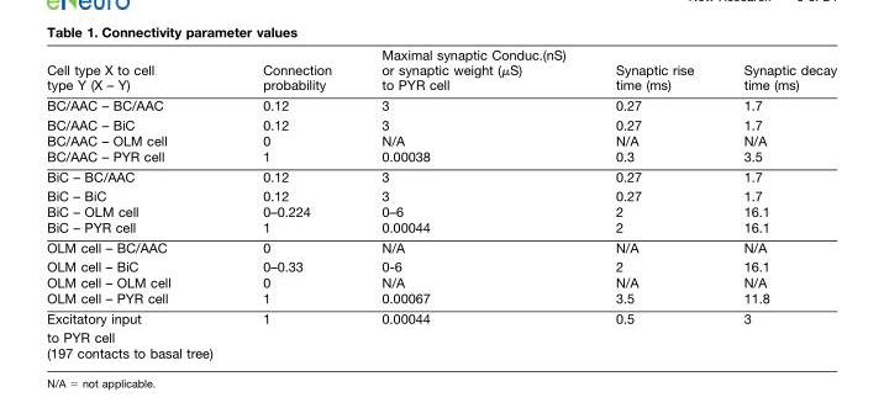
<table><thead><tr><td>Cell type X to cell type Y (X – Y)</td><td>Connection probability</td><td>Maximal synaptic Conduc.(nS) or synaptic weight (μS) to PYR cell</td><td>Synaptic rise time (ms)</td><td>Synaptic decay time (ms)</td></tr></thead><tbody><tr><td>BC/AAC – BC/AAC</td><td>0.12</td><td>3</td><td>0.27</td><td>1.7</td></tr><tr><td>BC/AAC – BiC</td><td>0.12</td><td>3</td><td>0.27</td><td>1.7</td></tr><tr><td>BC/AAC – OLM cell</td><td>0</td><td>N/A</td><td>N/A</td><td>N/A</td></tr><tr><td>BC/AAC – PYR cell</td><td>1</td><td>0.00038</td><td>0.3</td><td>3.5</td></tr><tr><td>BiC – BC/AAC</td><td>0.12</td><td>3</td><td>0.27</td><td>1.7</td></tr><tr><td>BiC – BiC</td><td>0.12</td><td>3</td><td>0.27</td><td>1.7</td></tr><tr><td>BiC – OLM cell</td><td>0–0.224</td><td>0–6</td><td>2</td><td>16.1</td></tr><tr><td>BiC – PYR cell</td><td>1</td><td>0.00044</td><td>2</td><td>16.1</td></tr><tr><td>OLM cell – BC/AAC</td><td>0</td><td>N/A</td><td>N/A</td><td>N/A</td></tr><tr><td>OLM cell – BiC</td><td>0–0.33</td><td>0-6</td><td>2</td><td>16.1</td></tr><tr><td>OLM cell – OLM cell</td><td>0</td><td>N/A</td><td>N/A</td><td>N/A</td></tr><tr><td>OLM cell – PYR cell</td><td>1</td><td>0.00067</td><td>3.5</td><td>11.8</td></tr><tr><td>Excitatory input</td><td>1</td><td>0.00044</td><td>0.5</td><td>3</td></tr><tr><td colspan="5">to PYR cell</td></tr><tr><td>(197 contacts to basal tree)</td><td></td><td></td><td></td><td></td></tr></tbody></table>